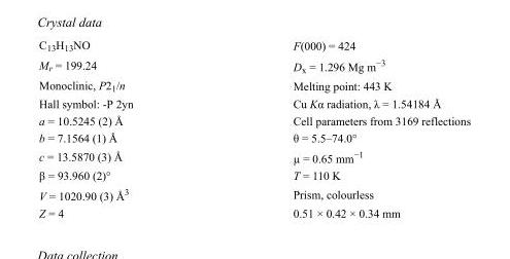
<table><tbody><tr><td>C<sub>13</sub>H<sub>13</sub>NO</td><td>F(000) = 424</td></tr><tr><td>M<sub>r</sub> = 199.24</td><td>D<sub>x</sub> = 1.296 Mg m<sup>−3</sup></td></tr><tr><td>Monoclinic, P2<sub>1</sub>/n</td><td>Melting point: 443 K</td></tr><tr><td>Hall symbol: -P 2yn</td><td>Cu Kα radiation, λ = 1.54184 Å</td></tr><tr><td>a = 10.5245 (2) Å</td><td>Cell parameters from 3169 reflections</td></tr><tr><td>b = 7.1564 (1) Å</td><td>θ = 5.5–74.0°</td></tr><tr><td>c = 13.5870 (3) Å</td><td>µ = 0.65 mm<sup>−1</sup></td></tr><tr><td>β = 93.960 (2)°</td><td>T = 110 K</td></tr><tr><td>V = 1020.90 (3) Å<sup>3</sup></td><td>Prism, colourless</td></tr><tr><td>Z = 4</td><td>0.51 × 0.42 × 0.34 mm</td></tr></tbody></table>